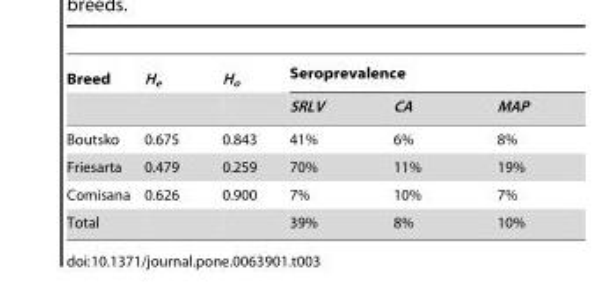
<table><thead><tr><td rowspan="2">Breed</td><td rowspan="2">H<sub>e</sub></td><td rowspan="2">H<sub>o</sub></td><td colspan="3">Seroprevalence</td></tr><tr><td>SRLV</td><td>CA</td><td>MAP</td></tr></thead><tbody><tr><td>Boutsko</td><td>0.675</td><td>0.843</td><td>41%</td><td>6%</td><td>8%</td></tr><tr><td>Friesarta</td><td>0.479</td><td>0.259</td><td>70%</td><td>11%</td><td>19%</td></tr><tr><td>Comisana</td><td>0.626</td><td>0.900</td><td>7%</td><td>10%</td><td>7%</td></tr><tr><td>Total</td><td></td><td></td><td>39%</td><td>8%</td><td>10%</td></tr></tbody></table>